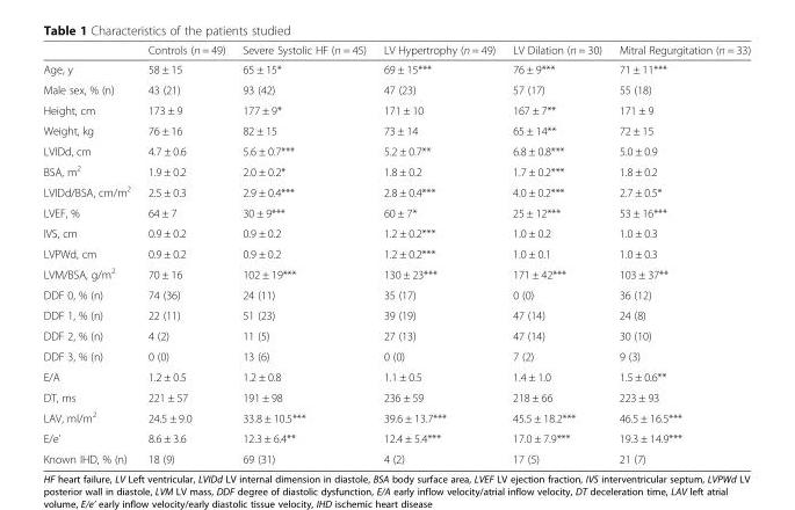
<table><thead><tr><td></td><td>Controls (n = 49)</td><td>Severe Systolic HF (n = 45)</td><td>LV Hypertrophy (n = 49)</td><td>LV Dilation (n = 30)</td><td>Mitral Regurgitation (n = 33)</td></tr></thead><tbody><tr><td>Age, y</td><td>58 ± 15</td><td>65 ± 15*</td><td>69 ± 15***</td><td>76 ± 9***</td><td>71 ± 11***</td></tr><tr><td>Male sex, % (n)</td><td>43 (21)</td><td>93 (42)</td><td>47 (23)</td><td>57 (17)</td><td>55 (18)</td></tr><tr><td>Height, cm</td><td>173 ± 9</td><td>177 ± 9*</td><td>171 ± 10</td><td>167 ± 7**</td><td>171 ± 9</td></tr><tr><td>Weight, kg</td><td>76 ± 16</td><td>82 ± 15</td><td>73 ± 14</td><td>65 ± 14**</td><td>72 ± 15</td></tr><tr><td>LVIDd, cm</td><td>4.7 ± 0.6</td><td>5.6 ± 0.7***</td><td>5.2 ± 0.7**</td><td>6.8 ± 0.8***</td><td>5.0 ± 0.9</td></tr><tr><td>BSA, m<sup>2</sup></td><td>1.9 ± 0.2</td><td>2.0 ± 0.2*</td><td>1.8 ± 0.2</td><td>1.7 ± 0.2***</td><td>1.8 ± 0.2</td></tr><tr><td>LVIDd/BSA, cm/m<sup>2</sup></td><td>2.5 ± 0.3</td><td>2.9 ± 0.4***</td><td>2.8 ± 0.4***</td><td>4.0 ± 0.2***</td><td>2.7 ± 0.5*</td></tr><tr><td>LVEF, %</td><td>64 ± 7</td><td>30 ± 9***</td><td>60 ± 7*</td><td>25 ± 12***</td><td>53 ± 16***</td></tr><tr><td>IVS, cm</td><td>0.9 ± 0.2</td><td>0.9 ± 0.2</td><td>1.2 ± 0.2***</td><td>1.0 ± 0.2</td><td>1.0 ± 0.3</td></tr><tr><td>LVPWd, cm</td><td>0.9 ± 0.2</td><td>0.9 ± 0.2</td><td>1.2 ± 0.2***</td><td>1.0 ± 0.1</td><td>1.0 ± 0.3</td></tr><tr><td>LVM/BSA, g/m<sup>2</sup></td><td>70 ± 16</td><td>102 ± 19***</td><td>130 ± 23***</td><td>171 ± 42***</td><td>103 ± 37**</td></tr><tr><td>DDF 0, % (n)</td><td>74 (36)</td><td>24 (11)</td><td>35 (17)</td><td>0 (0)</td><td>36 (12)</td></tr><tr><td>DDF 1, % (n)</td><td>22 (11)</td><td>51 (23)</td><td>39 (19)</td><td>47 (14)</td><td>24 (8)</td></tr><tr><td>DDF 2, % (n)</td><td>4 (2)</td><td>11 (5)</td><td>27 (13)</td><td>47 (14)</td><td>30 (10)</td></tr><tr><td>DDF 3, % (n)</td><td>0 (0)</td><td>13 (6)</td><td>0 (0)</td><td>7 (2)</td><td>9 (3)</td></tr><tr><td>E/A</td><td>1.2 ± 0.5</td><td>1.2 ± 0.8</td><td>1.1 ± 0.5</td><td>1.4 ± 1.0</td><td>1.5 ± 0.6**</td></tr><tr><td>DT, ms</td><td>221 ± 57</td><td>191 ± 98</td><td>236 ± 59</td><td>218 ± 66</td><td>223 ± 93</td></tr><tr><td>LAV, ml/m<sup>2</sup></td><td>24.5 ± 9.0</td><td>33.8 ± 10.5***</td><td>39.6 ± 13.7***</td><td>45.5 ± 18.2***</td><td>46.5 ± 16.5***</td></tr><tr><td>E/e’</td><td>8.6 ± 3.6</td><td>12.3 ± 6.4**</td><td>12.4 ± 5.4***</td><td>17.0 ± 7.9***</td><td>19.3 ± 14.9***</td></tr><tr><td>Known IHD, % (n)</td><td>18 (9)</td><td>69 (31)</td><td>4 (2)</td><td>17 (5)</td><td>21 (7)</td></tr></tbody></table>